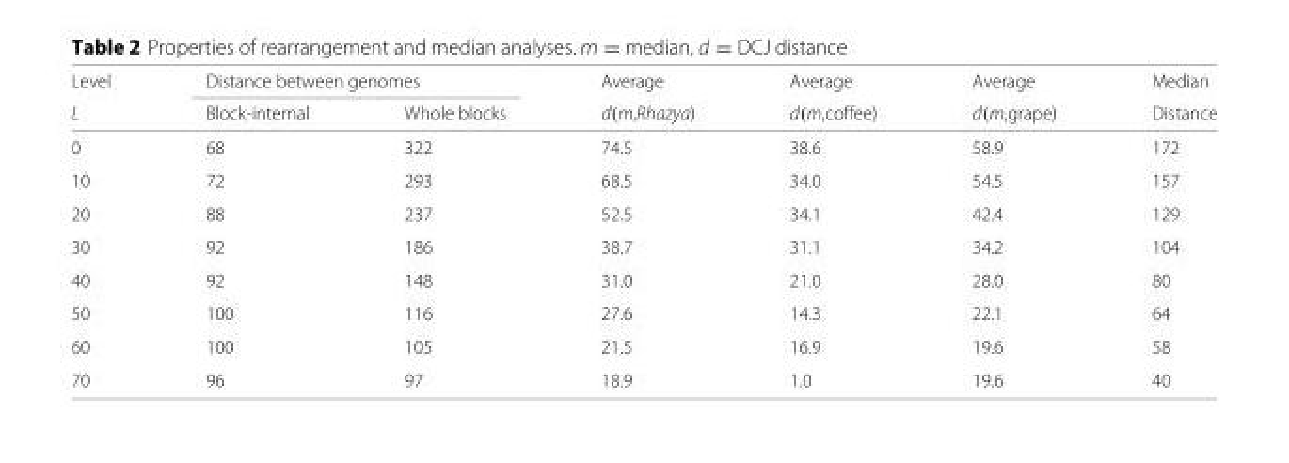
<table><thead><tr><td rowspan="2">Level L</td><td colspan="2">Distance between genomes</td><td rowspan="2">Average d(m,Rhazya)</td><td rowspan="2">Average d(m,coffee)</td><td rowspan="2">Average d(m,grape)</td><td rowspan="2">Median Distance</td></tr><tr><td>Block-internal</td><td>Whole blocks</td></tr></thead><tbody><tr><td>0</td><td>68</td><td>322</td><td>74.5</td><td>38.6</td><td>58.9</td><td>172</td></tr><tr><td>10</td><td>72</td><td>293</td><td>68.5</td><td>34.0</td><td>54.5</td><td>157</td></tr><tr><td>20</td><td>88</td><td>237</td><td>52.5</td><td>34.1</td><td>42.4</td><td>129</td></tr><tr><td>30</td><td>92</td><td>186</td><td>38.7</td><td>31.1</td><td>34.2</td><td>104</td></tr><tr><td>40</td><td>92</td><td>148</td><td>31.0</td><td>21.0</td><td>28.0</td><td>80</td></tr><tr><td>50</td><td>100</td><td>116</td><td>27.6</td><td>14.3</td><td>22.1</td><td>64</td></tr><tr><td>60</td><td>100</td><td>105</td><td>21.5</td><td>16.9</td><td>19.6</td><td>58</td></tr><tr><td>70</td><td>96</td><td>97</td><td>18.9</td><td>1.0</td><td>19.6</td><td>40</td></tr></tbody></table>